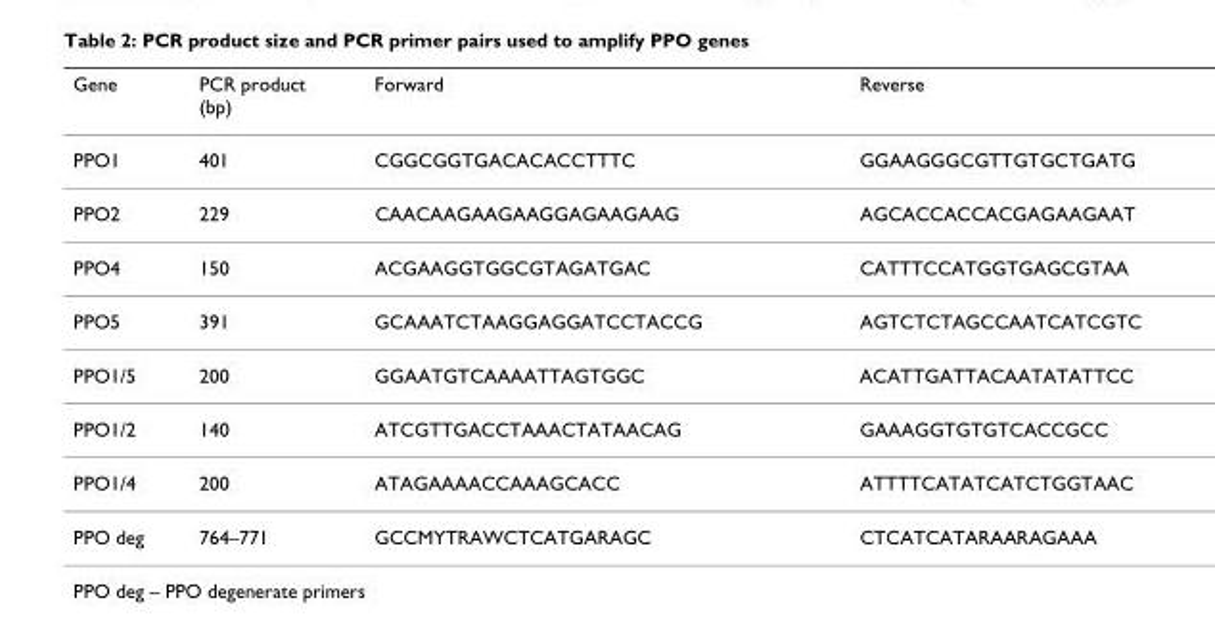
<table><thead><tr><td>Gene</td><td>PCR product (bp)</td><td>Forward</td><td>Reverse</td></tr></thead><tbody><tr><td>PPO1</td><td>401</td><td>CGGCGGTGACACACCTTTC</td><td>GGAAGGGCGTTGTGCTGATG</td></tr><tr><td>PPO2</td><td>229</td><td>CAACAAGAAGAAGGAGAAGAAG</td><td>AGCACCACCACGAGAAGAAT</td></tr><tr><td>PPO4</td><td>150</td><td>ACGAAGGTGGCGTAGATGAC</td><td>CATTTCCATGGTGAGCGTAA</td></tr><tr><td>PPO5</td><td>391</td><td>GCAAATCTAAGGAGGATCCTACCG</td><td>AGTCTCTAGCCAATCATCGTC</td></tr><tr><td>PPO1/5</td><td>200</td><td>GGAATGTCAAAATTAGTGGC</td><td>ACATTGATTACAATATATTCC</td></tr><tr><td>PPO1/2</td><td>140</td><td>ATCGTTGACCTAAACTATAACAG</td><td>GAAAGGTGTGTCACCGCC</td></tr><tr><td>PPO1/4</td><td>200</td><td>ATAGAAAACCAAAGCACC</td><td>ATTTTCATATCATCTGGTAAC</td></tr><tr><td>PPO deg</td><td>764–771</td><td>GCCMYTRAWCTCATGARAGC</td><td>CTCATCATARAARAGAAA</td></tr></tbody></table>